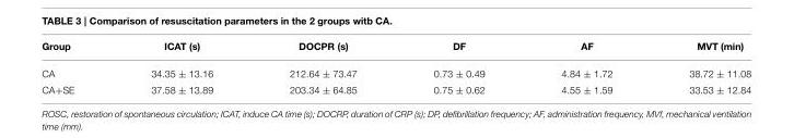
<table><thead><tr><td>Group</td><td>ICAT (s)</td><td>DOCPR (s)</td><td>DF</td><td>AF</td><td>MVT (min)</td></tr></thead><tbody><tr><td>CA</td><td>34.35 ± 13.16</td><td>212.64 ± 73.47</td><td>0.73 ± 0.49</td><td>4.84 ± 1.72</td><td>38.72 ± 11.08</td></tr><tr><td>CA+SE</td><td>37.58 ± 13.89</td><td>203.34 ± 64.85</td><td>0.75 ± 0.62</td><td>4.55 ± 1.59</td><td>33.53 ± 12.84</td></tr></tbody></table>